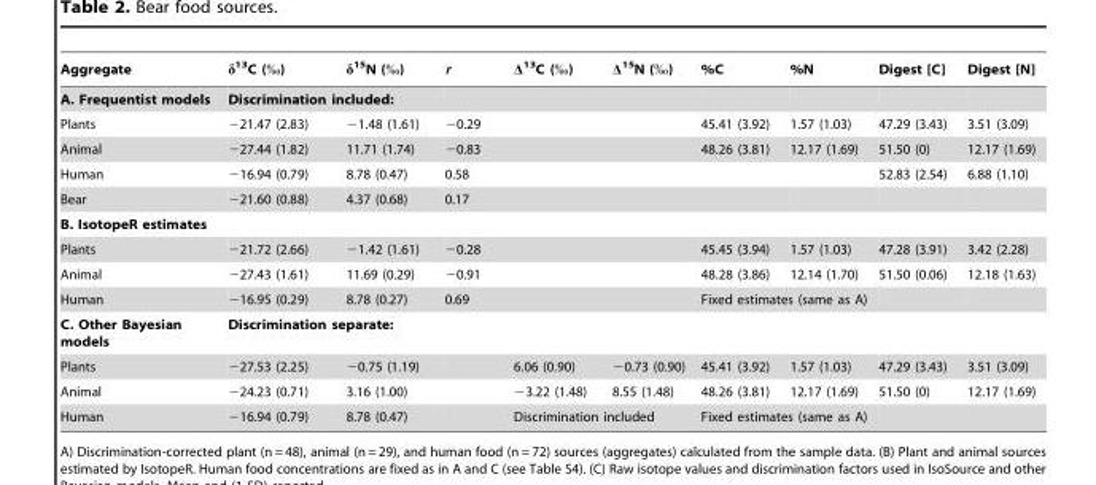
<table><thead><tr><td>Aggregate</td><td>δ<sup>13</sup>C (‰)</td><td>δ<sup>15</sup>N (‰)</td><td>r</td><td>Δ<sup>13</sup>C (‰)</td><td>Δ<sup>15</sup>N (‰)</td><td>%C</td><td>%N</td><td>Digest [C]</td><td>Digest [N]</td></tr></thead><tbody><tr><td>A. Frequentist models</td><td colspan="2">Discrimination included:</td><td></td><td></td><td></td><td></td><td></td><td></td><td></td></tr><tr><td>Plants</td><td>−21.47 (2.83)</td><td>−1.48 (1.61)</td><td>−0.29</td><td></td><td></td><td>45.41 (3.92)</td><td>1.57 (1.03)</td><td>47.29 (3.43)</td><td>3.51 (3.09)</td></tr><tr><td>Animal</td><td>−27.44 (1.82)</td><td>11.71 (1.74)</td><td>−0.83</td><td></td><td></td><td>48.26 (3.81)</td><td>12.17 (1.69)</td><td>51.50 (0)</td><td>12.17 (1.69)</td></tr><tr><td>Human</td><td>−16.94 (0.79)</td><td>8.78 (0.47)</td><td>0.58</td><td></td><td></td><td></td><td></td><td>52.83 (2.54)</td><td>6.88 (1.10)</td></tr><tr><td>Bear</td><td>−21.60 (0.88)</td><td>4.37 (0.68)</td><td>0.17</td><td></td><td></td><td></td><td></td><td></td><td></td></tr><tr><td colspan="10">B. IsotopeR estimates</td></tr><tr><td>Plants</td><td>−21.72 (2.66)</td><td>−1.42 (1.61)</td><td>−0.28</td><td></td><td></td><td>45.45 (3.94)</td><td>1.57 (1.03)</td><td>47.28 (3.91)</td><td>3.42 (2.28)</td></tr><tr><td>Animal</td><td>−27.43 (1.61)</td><td>11.69 (0.29)</td><td>−0.91</td><td></td><td></td><td>48.28 (3.86)</td><td>12.14 (1.70)</td><td>51.50 (0.06)</td><td>12.18 (1.63)</td></tr><tr><td>Human</td><td>−16.95 (0.29)</td><td>8.78 (0.27)</td><td>0.69</td><td></td><td></td><td colspan="2">Fixed estimates (same as A)</td><td></td><td></td></tr><tr><td>C. Other Bayesian models</td><td colspan="2">Discrimination separate:</td><td></td><td></td><td></td><td></td><td></td><td></td><td></td></tr><tr><td>Plants</td><td>−27.53 (2.25)</td><td>−0.75 (1.19)</td><td></td><td>6.06 (0.90)</td><td>−0.73 (0.90)</td><td>45.41 (3.92)</td><td>1.57 (1.03)</td><td>47.29 (3.43)</td><td>3.51 (3.09)</td></tr><tr><td>Animal</td><td>−24.23 (0.71)</td><td>3.16 (1.00)</td><td></td><td>−3.22 (1.48)</td><td>8.55 (1.48)</td><td>48.26 (3.81)</td><td>12.17 (1.69)</td><td>51.50 (0)</td><td>12.17 (1.69)</td></tr><tr><td>Human</td><td>−16.94 (0.79)</td><td>8.78 (0.47)</td><td></td><td colspan="2">Discrimination included</td><td colspan="2">Fixed estimates (same as A)</td><td></td><td></td></tr></tbody></table>